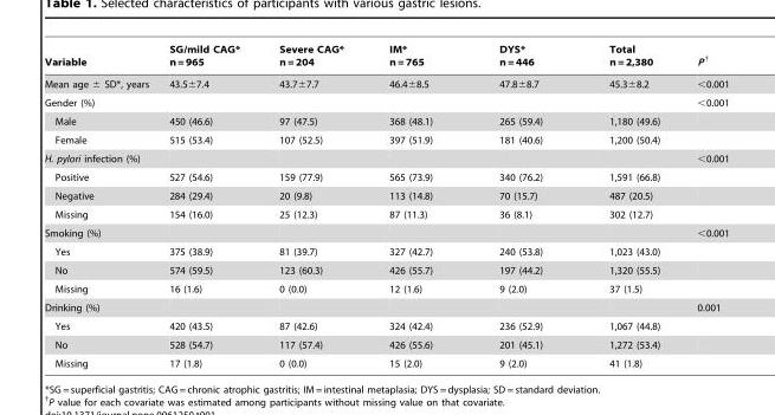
<table><thead><tr><td>Variable</td><td>SG/mild CAG* n = 965</td><td>Severe CAG* n = 204</td><td>IM* n = 765</td><td>DYS* n = 446</td><td>Total n = 2,380</td><td>P †</td></tr></thead><tbody><tr><td>Mean age ± SD*, years</td><td>43.5±7.4</td><td>43.7±7.7</td><td>46.4±8.5</td><td>47.8±8.7</td><td>45.3±8.2</td><td>&lt;0.001</td></tr><tr><td>Gender (%)</td><td></td><td></td><td></td><td></td><td></td><td>&lt;0.001</td></tr><tr><td>Male</td><td>450 (46.6)</td><td>97 (47.5)</td><td>368 (48.1)</td><td>265 (59.4)</td><td>1,180 (49.6)</td><td></td></tr><tr><td>Female</td><td>515 (53.4)</td><td>107 (52.5)</td><td>397 (51.9)</td><td>181 (40.6)</td><td>1,200 (50.4)</td><td></td></tr><tr><td>H. pylori infection (%)</td><td></td><td></td><td></td><td></td><td></td><td>&lt;0.001</td></tr><tr><td>Positive</td><td>527 (54.6)</td><td>159 (77.9)</td><td>565 (73.9)</td><td>340 (76.2)</td><td>1,591 (66.8)</td><td></td></tr><tr><td>Negative</td><td>284 (29.4)</td><td>20 (9.8)</td><td>113 (14.8)</td><td>70 (15.7)</td><td>487 (20.5)</td><td></td></tr><tr><td>Missing</td><td>154 (16.0)</td><td>25 (12.3)</td><td>87 (11.3)</td><td>36 (8.1)</td><td>302 (12.7)</td><td></td></tr><tr><td>Smoking (%)</td><td></td><td></td><td></td><td></td><td></td><td>&lt;0.001</td></tr><tr><td>Yes</td><td>375 (38.9)</td><td>81 (39.7)</td><td>327 (42.7)</td><td>240 (53.8)</td><td>1,023 (43.0)</td><td></td></tr><tr><td>No</td><td>574 (59.5)</td><td>123 (60.3)</td><td>426 (55.7)</td><td>197 (44.2)</td><td>1,320 (55.5)</td><td></td></tr><tr><td>Missing</td><td>16 (1.6)</td><td>0 (0.0)</td><td>12 (1.6)</td><td>9 (2.0)</td><td>37 (1.5)</td><td></td></tr><tr><td>Drinking (%)</td><td></td><td></td><td></td><td></td><td></td><td>0.001</td></tr><tr><td>Yes</td><td>420 (43.5)</td><td>87 (42.6)</td><td>324 (42.4)</td><td>236 (52.9)</td><td>1,067 (44.8)</td><td></td></tr><tr><td>No</td><td>528 (54.7)</td><td>117 (57.4)</td><td>426 (55.6)</td><td>201 (45.1)</td><td>1,272 (53.4)</td><td></td></tr><tr><td>Missing</td><td>17 (1.8)</td><td>0 (0.0)</td><td>15 (2.0)</td><td>9 (2.0)</td><td>41 (1.8)</td><td></td></tr></tbody></table>